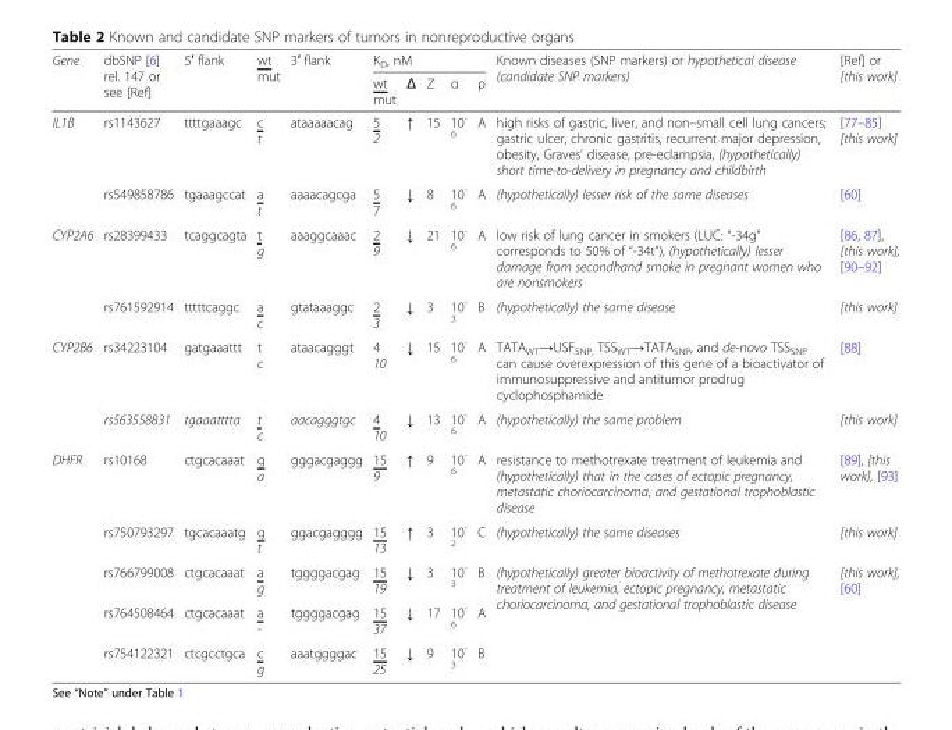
<table><thead><tr><td rowspan="2">Gene</td><td rowspan="2">dbSNP [6] rel. 147 or see [Ref]</td><td rowspan="2">5′ flank</td><td rowspan="2">wt mut</td><td rowspan="2">3′ flank</td><td colspan="5">K<sub>D</sub>, nM</td><td rowspan="2">Known diseases (SNP markers) or hypothetical disease (candidate SNP markers)</td><td rowspan="2">[Ref] or [this work]</td></tr><tr><td>wt mut</td><td>Δ</td><td>Z</td><td>α</td><td>ρ</td></tr></thead><tbody><tr><td rowspan="2">IL1B</td><td>rs1143627</td><td>ttttgaaagc</td><td>c t</td><td>ataaaaacag</td><td>5 2</td><td>↑</td><td>15</td><td>10<sup>- 6</sup></td><td>A</td><td>high risks of gastric, liver, and non–small cell lung cancers; gastric ulcer, chronic gastritis, recurrent major depression, obesity, Graves’ disease, pre-eclampsia, (hypothetically) short time-to-delivery in pregnancy and childbirth</td><td>[77–85] [this work]</td></tr><tr><td>rs549858786</td><td>tgaaagccat</td><td>a t</td><td>aaaacagcga</td><td>5 7</td><td>↓</td><td>8</td><td>10<sup>- 6</sup></td><td>A</td><td>(hypothetically) lesser risk of the same diseases</td><td>[60]</td></tr><tr><td rowspan="2">CYP2A6</td><td>rs28399433</td><td>tcaggcagta</td><td>t g</td><td>aaaggcaaac</td><td>2 9</td><td>↓</td><td>21</td><td>10<sup>- 6</sup></td><td>A</td><td>low risk of lung cancer in smokers (LUC: “-34g” corresponds to 50% of “-34t”), (hypothetically) lesser damage from secondhand smoke in pregnant women who are nonsmokers</td><td>[86, 87], [this work], [90–92]</td></tr><tr><td>rs761592914</td><td>tttttcaggc</td><td>a c</td><td>gtataaaggc</td><td>2 3</td><td>↓</td><td>3</td><td>10<sup>- 3</sup></td><td>B</td><td>(hypothetically) the same disease</td><td>[this work]</td></tr><tr><td rowspan="2">CYP2B6</td><td>rs34223104</td><td>gatgaaattt</td><td>t c</td><td>ataacagggt</td><td>4 10</td><td>↓</td><td>15</td><td>10<sup>- 6</sup></td><td>A</td><td>TATA<sub>WT</sub>→USF<sub>SNP,</sub> TSS<sub>WT</sub>→TATA<sub>SNP</sub>, and de-novo TSS<sub>SNP</sub> can cause overexpression of this gene of a bioactivator of immunosuppressive and antitumor prodrug cyclophosphamide</td><td>[88]</td></tr><tr><td>rs563558831</td><td>tgaaatttta</td><td>t c</td><td>aacagggtgc</td><td>4 10</td><td>↓</td><td>13</td><td>10<sup>- 6</sup></td><td>A</td><td>(hypothetically) the same problem</td><td>[this work]</td></tr><tr><td rowspan="5">DHFR</td><td>rs10168</td><td>ctgcacaaat</td><td>g a</td><td>gggacgaggg</td><td>15 9</td><td>↑</td><td>9</td><td>10<sup>- 6</sup></td><td>A</td><td>resistance to methotrexate treatment of leukemia and (hypothetically) that in the cases of ectopic pregnancy, metastatic choriocarcinoma, and gestational trophoblastic disease</td><td>[89], [this work], [93]</td></tr><tr><td>rs750793297</td><td>tgcacaaatg</td><td>g t</td><td>ggacgagggg</td><td>15 13</td><td>↑</td><td>3</td><td>10<sup>- 2</sup></td><td>C</td><td>(hypothetically) the same diseases</td><td>[this work]</td></tr><tr><td>rs766799008</td><td>ctgcacaaat</td><td>a g</td><td>tggggacgag</td><td>15 19</td><td>↓</td><td>3</td><td>10<sup>- 3</sup></td><td>B</td><td rowspan="3">(hypothetically) greater bioactivity of methotrexate during treatment of leukemia, ectopic pregnancy, metastatic choriocarcinoma, and gestational trophoblastic disease</td><td rowspan="3">[this work], [60]</td></tr><tr><td>rs764508464</td><td>ctgcacaaat</td><td>a -</td><td>tggggacgag</td><td>15 37</td><td>↓</td><td>17</td><td>10<sup>- 6</sup></td><td>A</td></tr><tr><td>rs754122321</td><td>ctcgcctgca</td><td>c g</td><td>aaatggggac</td><td>15 25</td><td>↓</td><td>9</td><td>10<sup>- 3</sup></td><td>B</td></tr></tbody></table>